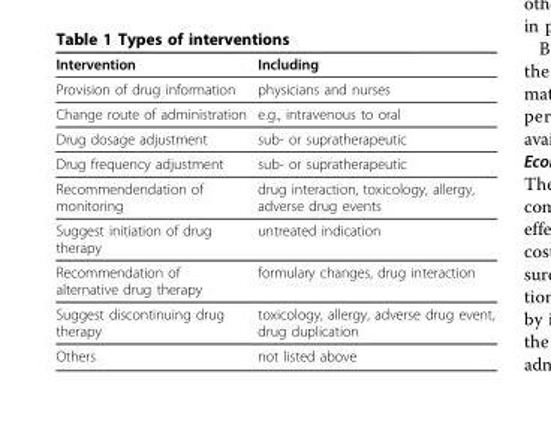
<table><thead><tr><td>Intervention</td><td>Including</td></tr></thead><tbody><tr><td>Provision of drug information</td><td>physicians and nurses</td></tr><tr><td>Change route of administration</td><td>e.g., intravenous to oral</td></tr><tr><td>Drug dosage adjustment</td><td>sub- or supratherapeutic</td></tr><tr><td>Drug frequency adjustment</td><td>sub- or supratherapeutic</td></tr><tr><td>Recommendendation of monitoring</td><td>drug interaction, toxicology, allergy, adverse drug events</td></tr><tr><td>Suggest initiation of drug therapy</td><td>untreated indication</td></tr><tr><td>Recommendation of alternative drug therapy</td><td>formulary changes, drug interaction</td></tr><tr><td>Suggest discontinuing drug therapy</td><td>toxicology, allergy, adverse drug event, drug duplication</td></tr><tr><td>Others</td><td>not listed above</td></tr></tbody></table>